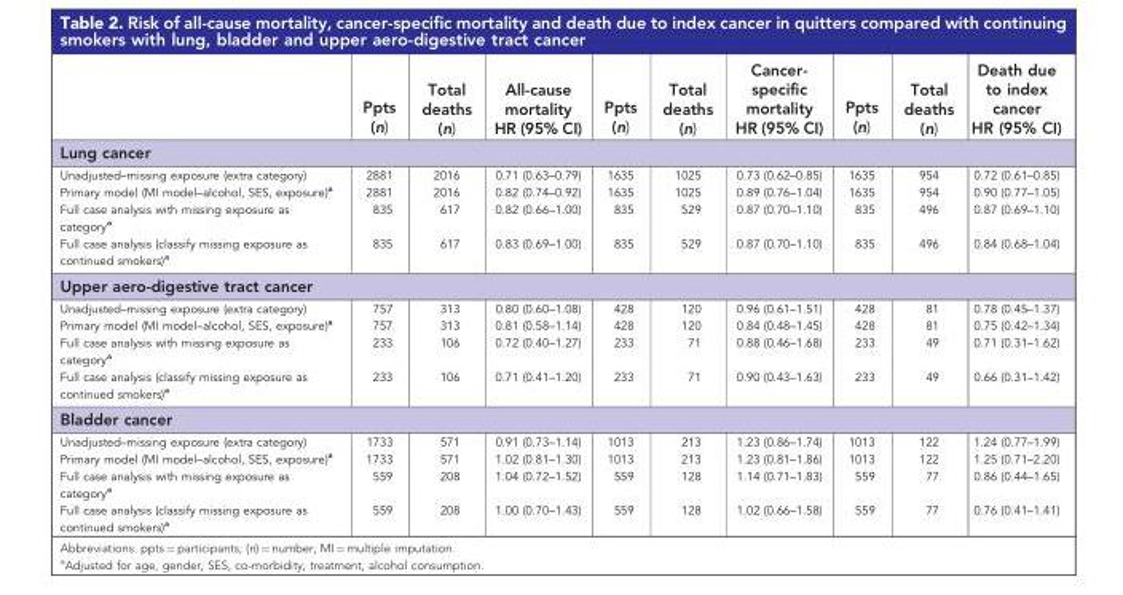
<table><thead><tr><td></td><td>Ppts (n)</td><td>Total deaths (n)</td><td>All-cause mortality HR (95% CI)</td><td>Ppts (n)</td><td>Total deaths (n)</td><td>Cancer- specific mortality HR (95% CI)</td><td>Ppts (n)</td><td>Total deaths (n)</td><td>Death due to index cancer HR (95% CI)</td></tr></thead><tbody><tr><td colspan="10">Lung cancer</td></tr><tr><td>Unadjusted–missing exposure (extra category)</td><td>2881</td><td>2016</td><td>0.71 (0.63–0.79)</td><td>1635</td><td>1025</td><td>0.73 (0.62–0.85)</td><td>1635</td><td>954</td><td>0.72 (0.61–0.85)</td></tr><tr><td>Primary model (MI model–alcohol, SES, exposure)<sup>a</sup></td><td>2881</td><td>2016</td><td>0.82 (0.74–0.92)</td><td>1635</td><td>1025</td><td>0.89 (0.76–1.04)</td><td>1635</td><td>954</td><td>0.90 (0.77–1.05)</td></tr><tr><td>Full case analysis with missing exposure as category<sup>a</sup></td><td>835</td><td>617</td><td>0.82 (0.66–1.00)</td><td>835</td><td>529</td><td>0.87 (0.70–1.10)</td><td>835</td><td>496</td><td>0.87 (0.69–1.10)</td></tr><tr><td>Full case analysis (classify missing exposure as continued smokers)<sup>a</sup></td><td>835</td><td>617</td><td>0.83 (0.69–1.00)</td><td>835</td><td>529</td><td>0.87 (0.70–1.10)</td><td>835</td><td>496</td><td>0.84 (0.68–1.04)</td></tr><tr><td colspan="10">Upper aero-digestive tract cancer</td></tr><tr><td>Unadjusted–missing exposure (extra category)</td><td>757</td><td>313</td><td>0.80 (0.60–1.08)</td><td>428</td><td>120</td><td>0.96 (0.61–1.51)</td><td>428</td><td>81</td><td>0.78 (0.45–1.37)</td></tr><tr><td>Primary model (MI model–alcohol, SES, exposure)<sup>a</sup></td><td>757</td><td>313</td><td>0.81 (0.58–1.14)</td><td>428</td><td>120</td><td>0.84 (0.48–1.45)</td><td>428</td><td>81</td><td>0.75 (0.42–1.34)</td></tr><tr><td>Full case analysis with missing exposure as category<sup>a</sup></td><td>233</td><td>106</td><td>0.72 (0.40–1.27)</td><td>233</td><td>71</td><td>0.88 (0.46–1.68)</td><td>233</td><td>49</td><td>0.71 (0.31–1.62)</td></tr><tr><td>Full case analysis (classify missing exposure as continued smokers)<sup>a</sup></td><td>233</td><td>106</td><td>0.71 (0.41–1.20)</td><td>233</td><td>71</td><td>0.90 (0.43–1.63)</td><td>233</td><td>49</td><td>0.66 (0.31–1.42)</td></tr><tr><td colspan="10">Bladder cancer</td></tr><tr><td>Unadjusted–missing exposure (extra category)</td><td>1733</td><td>571</td><td>0.91 (0.73–1.14)</td><td>1013</td><td>213</td><td>1.23 (0.86–1.74)</td><td>1013</td><td>122</td><td>1.24 (0.77–1.99)</td></tr><tr><td>Primary model (MI model–alcohol, SES, exposure)<sup>a</sup></td><td>1733</td><td>571</td><td>1.02 (0.81–1.30)</td><td>1013</td><td>213</td><td>1.23 (0.81–1.86)</td><td>1013</td><td>122</td><td>1.25 (0.71–2.20)</td></tr><tr><td>Full case analysis with missing exposure as category<sup>a</sup></td><td>559</td><td>208</td><td>1.04 (0.72–1.52)</td><td>559</td><td>128</td><td>1.14 (0.71–1.83)</td><td>559</td><td>77</td><td>0.86 (0.44–1.65)</td></tr><tr><td>Full case analysis (classify missing exposure as continued smokers)<sup>a</sup></td><td>559</td><td>208</td><td>1.00 (0.70–1.43)</td><td>559</td><td>128</td><td>1.02 (0.66–1.58)</td><td>559</td><td>77</td><td>0.76 (0.41–1.41)</td></tr></tbody></table>